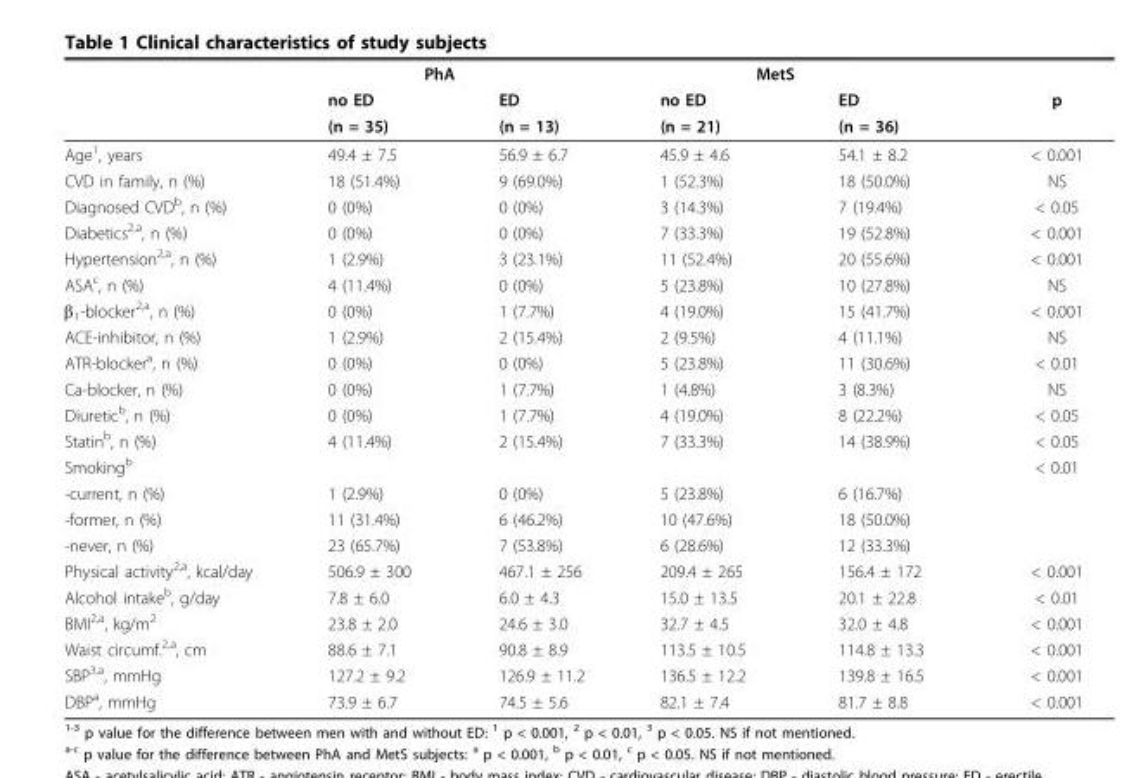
<table><thead><tr><td></td><td>PhA</td><td></td><td>MetS</td><td></td><td></td></tr></thead><tbody><tr><td></td><td>no ED</td><td>ED</td><td>no ED</td><td>ED</td><td>p</td></tr><tr><td></td><td>(n = 35)</td><td>(n = 13)</td><td>(n = 21)</td><td>(n = 36)</td><td></td></tr><tr><td>Age<sup>1</sup>, years</td><td>49.4 ± 7.5</td><td>56.9 ± 6.7</td><td>45.9 ± 4.6</td><td>54.1 ± 8.2</td><td>&lt; 0.001</td></tr><tr><td>CVD in family, n (%)</td><td>18 (51.4%)</td><td>9 (69.0%)</td><td>1 (52.3%)</td><td>18 (50.0%)</td><td>NS</td></tr><tr><td>Diagnosed CVD<sup>b</sup>, n (%)</td><td>0 (0%)</td><td>0 (0%)</td><td>3 (14.3%)</td><td>7 (19.4%)</td><td>&lt; 0.05</td></tr><tr><td>Diabetics<sup>2,a</sup>, n (%)</td><td>0 (0%)</td><td>0 (0%)</td><td>7 (33.3%)</td><td>19 (52.8%)</td><td>&lt; 0.001</td></tr><tr><td>Hypertension<sup>2,a</sup>, n (%)</td><td>1 (2.9%)</td><td>3 (23.1%)</td><td>11 (52.4%)</td><td>20 (55.6%)</td><td>&lt; 0.001</td></tr><tr><td>ASA<sup>c</sup>, n (%)</td><td>4 (11.4%)</td><td>0 (0%)</td><td>5 (23.8%)</td><td>10 (27.8%)</td><td>NS</td></tr><tr><td>β<sub>1</sub>-blocker<sup>2,a</sup>, n (%)</td><td>0 (0%)</td><td>1 (7.7%)</td><td>4 (19.0%)</td><td>15 (41.7%)</td><td>&lt; 0.001</td></tr><tr><td>ACE-inhibitor, n (%)</td><td>1 (2.9%)</td><td>2 (15.4%)</td><td>2 (9.5%)</td><td>4 (11.1%)</td><td>NS</td></tr><tr><td>ATR-blocker<sup>a</sup>, n (%)</td><td>0 (0%)</td><td>0 (0%)</td><td>5 (23.8%)</td><td>11 (30.6%)</td><td>&lt; 0.01</td></tr><tr><td>Ca-blocker, n (%)</td><td>0 (0%)</td><td>1 (7.7%)</td><td>1 (4.8%)</td><td>3 (8.3%)</td><td>NS</td></tr><tr><td>Diuretic<sup>b</sup>, n (%)</td><td>0 (0%)</td><td>1 (7.7%)</td><td>4 (19.0%)</td><td>8 (22.2%)</td><td>&lt; 0.05</td></tr><tr><td>Statin<sup>b</sup>, n (%)</td><td>4 (11.4%)</td><td>2 (15.4%)</td><td>7 (33.3%)</td><td>14 (38.9%)</td><td>&lt; 0.05</td></tr><tr><td>Smoking<sup>b</sup></td><td></td><td></td><td></td><td></td><td>&lt; 0.01</td></tr><tr><td>-current, n (%)</td><td>1 (2.9%)</td><td>0 (0%)</td><td>5 (23.8%)</td><td>6 (16.7%)</td><td></td></tr><tr><td>-former, n (%)</td><td>11 (31.4%)</td><td>6 (46.2%)</td><td>10 (47.6%)</td><td>18 (50.0%)</td><td></td></tr><tr><td>-never, n (%)</td><td>23 (65.7%)</td><td>7 (53.8%)</td><td>6 (28.6%)</td><td>12 (33.3%)</td><td></td></tr><tr><td>Physical activity<sup>2,a</sup>, kcal/day</td><td>506.9 ± 300</td><td>467.1 ± 256</td><td>209.4 ± 265</td><td>156.4 ± 172</td><td>&lt; 0.001</td></tr><tr><td>Alcohol intake<sup>b</sup>, g/day</td><td>7.8 ± 6.0</td><td>6.0 ± 4.3</td><td>15.0 ± 13.5</td><td>20.1 ± 22.8</td><td>&lt; 0.01</td></tr><tr><td>BMI<sup>2,a</sup>, kg/m<sup>2</sup></td><td>23.8 ± 2.0</td><td>24.6 ± 3.0</td><td>32.7 ± 4.5</td><td>32.0 ± 4.8</td><td>&lt; 0.001</td></tr><tr><td>Waist circumf.<sup>2,a</sup>, cm</td><td>88.6 ± 7.1</td><td>90.8 ± 8.9</td><td>113.5 ± 10.5</td><td>114.8 ± 13.3</td><td>&lt; 0.001</td></tr><tr><td>SBP<sup>3,a</sup>, mmHg</td><td>127.2 ± 9.2</td><td>126.9 ± 11.2</td><td>136.5 ± 12.2</td><td>139.8 ± 16.5</td><td>&lt; 0.001</td></tr><tr><td>DBP<sup>a</sup>, mmHg</td><td>73.9 ± 6.7</td><td>74.5 ± 5.6</td><td>82.1 ± 7.4</td><td>81.7 ± 8.8</td><td>&lt; 0.001</td></tr></tbody></table>